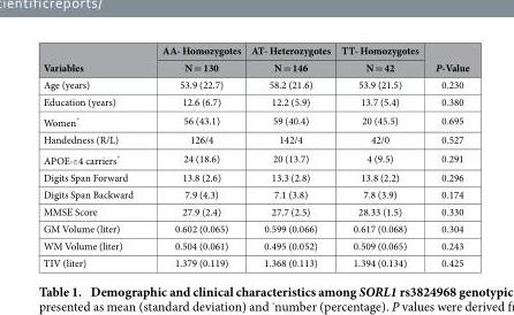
<table><thead><tr><td rowspan="2">Variables</td><td rowspan="2">AA- Homozygotes N = 130</td><td rowspan="2">AT- Heterozygotes N = 146</td><td rowspan="2">TT- Homozygotes N = 42</td><td rowspan="2">P-Value</td></tr><tr></tr></thead><tbody><tr><td>Age (years)</td><td>53.9 (22.7)</td><td>58.2 (21.6)</td><td>53.9 (21.5)</td><td>0.230</td></tr><tr><td>Education (years)</td><td>12.6 (6.7)</td><td>12.2 (5.9)</td><td>13.7 (5.4)</td><td>0.380</td></tr><tr><td>Women*</td><td>56 (43.1)</td><td>59 (40.4)</td><td>20 (45.5)</td><td>0.695</td></tr><tr><td>Handedness (R/L)</td><td>126/4</td><td>142/4</td><td>42/0</td><td>0.527</td></tr><tr><td>APOE-ε 4 carriers*</td><td>24 (18.6)</td><td>20 (13.7)</td><td>4 (9.5)</td><td>0.291</td></tr><tr><td>Digits Span Forward</td><td>13.8 (2.6)</td><td>13.3 (2.8)</td><td>13.8 (2.2)</td><td>0.296</td></tr><tr><td>Digits Span Backward</td><td>7.9 (4.3)</td><td>7.1 (3.8)</td><td>7.8 (3.9)</td><td>0.174</td></tr><tr><td>MMSE Score</td><td>27.9 (2.4)</td><td>27.7 (2.5)</td><td>28.33 (1.5)</td><td>0.330</td></tr><tr><td>GM Volume (liter)</td><td>0.602 (0.065)</td><td>0.599 (0.066)</td><td>0.617 (0.068)</td><td>0.304</td></tr><tr><td>WM Volume (liter)</td><td>0.504 (0.061)</td><td>0.495 (0.052)</td><td>0.509 (0.065)</td><td>0.243</td></tr><tr><td>TIV (liter)</td><td>1.379 (0.119)</td><td>1.368 (0.113)</td><td>1.394 (0.134)</td><td>0.425</td></tr></tbody></table>